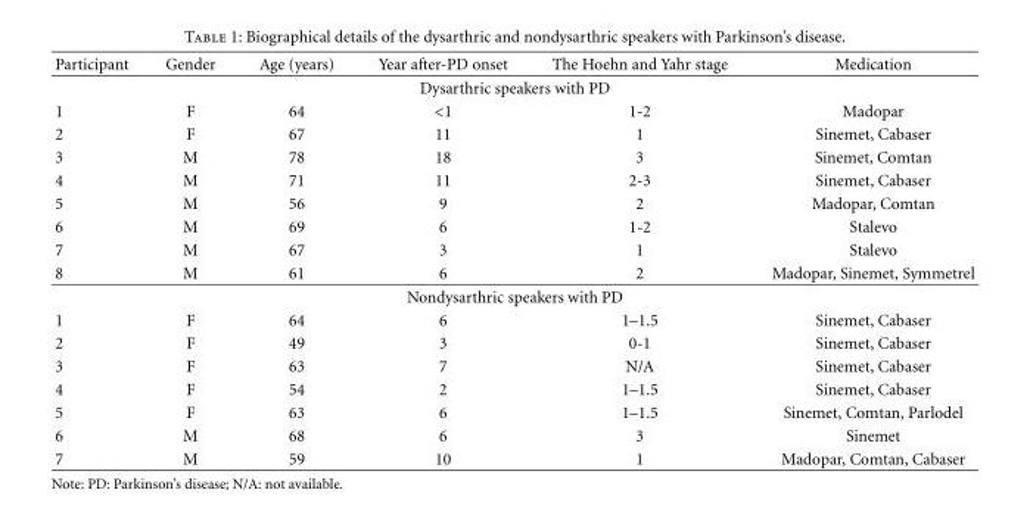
<table><thead><tr><td>Participant</td><td>Gender</td><td>Age (years)</td><td>Year after-PD onset</td><td>The Hoehn and Yahr stage</td><td>Medication</td></tr></thead><tbody><tr><td colspan="6">Dysarthric speakers with PD</td></tr><tr><td>1</td><td>F</td><td>64</td><td>&lt;1</td><td>1-2</td><td>Madopar</td></tr><tr><td>2</td><td>F</td><td>67</td><td>11</td><td>1</td><td>Sinemet, Cabaser</td></tr><tr><td>3</td><td>M</td><td>78</td><td>18</td><td>3</td><td>Sinemet, Comtan</td></tr><tr><td>4</td><td>M</td><td>71</td><td>11</td><td>2-3</td><td>Sinemet, Cabaser</td></tr><tr><td>5</td><td>M</td><td>56</td><td>9</td><td>2</td><td>Madopar, Comtan</td></tr><tr><td>6</td><td>M</td><td>69</td><td>6</td><td>1-2</td><td>Stalevo</td></tr><tr><td>7</td><td>M</td><td>67</td><td>3</td><td>1</td><td>Stalevo</td></tr><tr><td>8</td><td>M</td><td>61</td><td>6</td><td>2</td><td>Madopar, Sinemet, Symmetrel</td></tr><tr><td colspan="6">Nondysarthric speakers with PD</td></tr><tr><td>1</td><td>F</td><td>64</td><td>6</td><td>1–1.5</td><td>Sinemet, Cabaser</td></tr><tr><td>2</td><td>F</td><td>49</td><td>3</td><td>0-1</td><td>Sinemet, Cabaser</td></tr><tr><td>3</td><td>F</td><td>63</td><td>7</td><td>N/A</td><td>Sinemet, Cabaser</td></tr><tr><td>4</td><td>F</td><td>54</td><td>2</td><td>1–1.5</td><td>Sinemet, Cabaser</td></tr><tr><td>5</td><td>F</td><td>63</td><td>6</td><td>1–1.5</td><td>Sinemet, Comtan, Parlodel</td></tr><tr><td>6</td><td>M</td><td>68</td><td>6</td><td>3</td><td>Sinemet</td></tr><tr><td>7</td><td>M</td><td>59</td><td>10</td><td>1</td><td>Madopar, Comtan, Cabaser</td></tr></tbody></table>